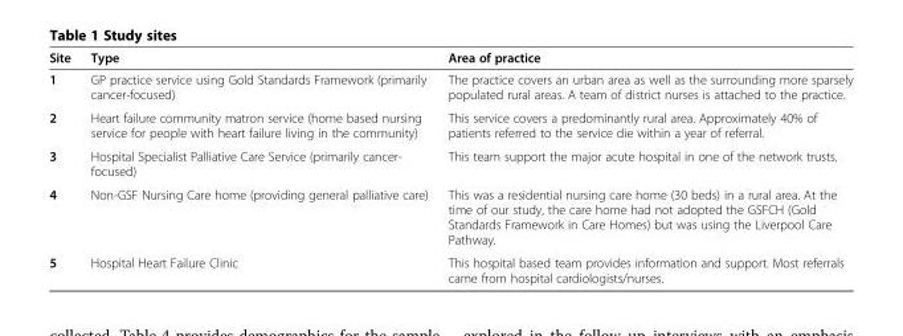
<table><thead><tr><td>Site</td><td>Type</td><td>Area of practice</td></tr></thead><tbody><tr><td>1</td><td>GP practice service using Gold Standards Framework (primarily cancer-focused)</td><td>The practice covers an urban area as well as the surrounding more sparsely populated rural areas. A team of district nurses is attached to the practice.</td></tr><tr><td>2</td><td>Heart failure community matron service (home based nursing service for people with heart failure living in the community)</td><td>This service covers a predominantly rural area. Approximately 40% of patients referred to the service die within a year of referral.</td></tr><tr><td>3</td><td>Hospital Specialist Palliative Care Service (primarily cancer- focused)</td><td>This team support the major acute hospital in one of the network trusts.</td></tr><tr><td>4</td><td>Non-GSF Nursing Care home (providing general palliative care)</td><td>This was a residential nursing care home (30 beds) in a rural area. At the time of our study, the care home had not adopted the GSFCH (Gold Standards Framework in Care Homes) but was using the Liverpool Care Pathway.</td></tr><tr><td>5</td><td>Hospital Heart Failure Clinic</td><td>This hospital based team provides information and support. Most referrals came from hospital cardiologists/nurses.</td></tr></tbody></table>